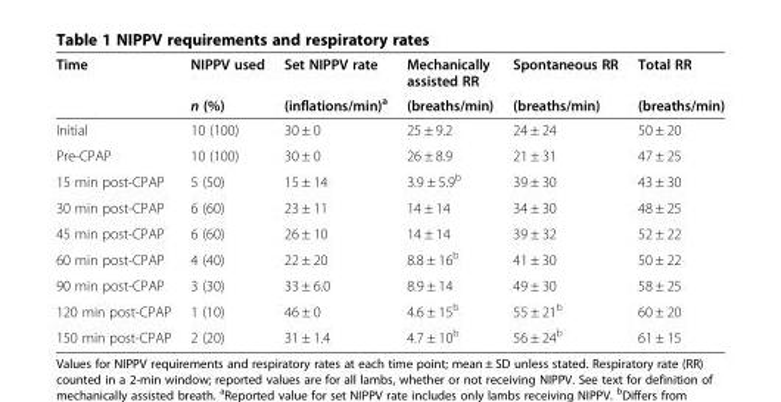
<table><thead><tr><td rowspan="2">Time</td><td rowspan="2">NIPPV used n (%)</td><td rowspan="2">Set NIPPV rate (inflations/min)<sup>a</sup></td><td rowspan="2">Mechanically assisted RR (breaths/min)</td><td rowspan="2">Spontaneous RR (breaths/min)</td><td rowspan="2">Total RR (breaths/min)</td></tr><tr></tr></thead><tbody><tr><td>Initial</td><td>10 (100)</td><td>30 ± 0</td><td>25 ± 9.2</td><td>24 ± 24</td><td>50 ± 20</td></tr><tr><td>Pre-CPAP</td><td>10 (100)</td><td>30 ± 0</td><td>26 ± 8.9</td><td>21 ± 31</td><td>47 ± 25</td></tr><tr><td>15 min post-CPAP</td><td>5 (50)</td><td>15 ± 14</td><td>3.9 ± 5.9<sup>b</sup></td><td>39 ± 30</td><td>43 ± 30</td></tr><tr><td>30 min post-CPAP</td><td>6 (60)</td><td>23 ± 11</td><td>14 ± 14</td><td>34 ± 30</td><td>48 ± 25</td></tr><tr><td>45 min post-CPAP</td><td>6 (60)</td><td>26 ± 10</td><td>14 ± 14</td><td>39 ± 32</td><td>52 ± 22</td></tr><tr><td>60 min post-CPAP</td><td>4 (40)</td><td>22 ± 20</td><td>8.8 ± 16<sup>b</sup></td><td>41 ± 30</td><td>50 ± 22</td></tr><tr><td>90 min post-CPAP</td><td>3 (30)</td><td>33 ± 6.0</td><td>8.9 ± 14</td><td>49 ± 30</td><td>58 ± 25</td></tr><tr><td>120 min post-CPAP</td><td>1 (10)</td><td>46 ± 0</td><td>4.6 ± 15<sup>b</sup></td><td>55 ± 21<sup>b</sup></td><td>60 ± 20</td></tr><tr><td>150 min post-CPAP</td><td>2 (20)</td><td>31 ± 1.4</td><td>4.7 ± 10<sup>b</sup></td><td>56 ± 24<sup>b</sup></td><td>61 ± 15</td></tr></tbody></table>